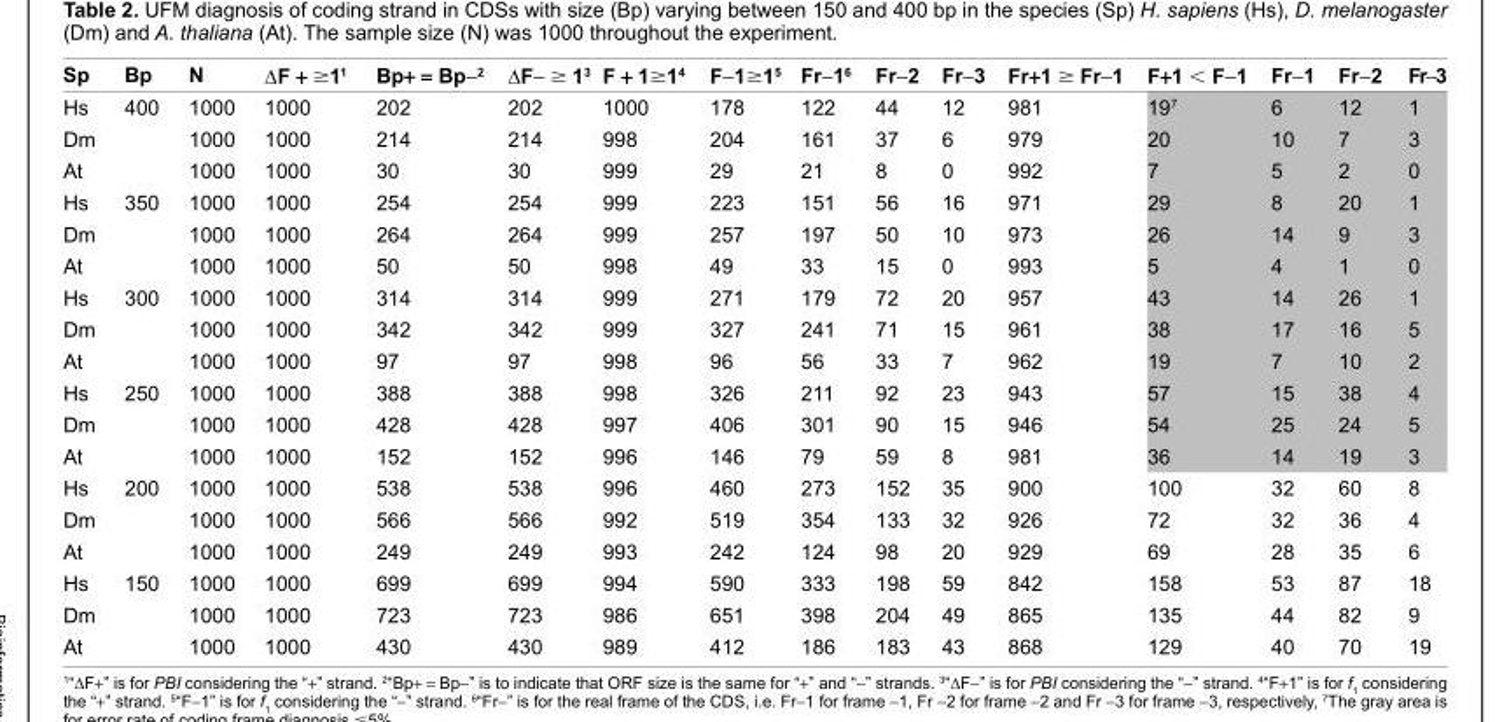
<table><thead><tr><td>sp</td><td>Bp</td><td>n</td><td>∆F + ≥11</td><td>Bp+ = Bp-2</td><td>∆F- ≥ 13</td><td>F + 1≥1<sup>4</sup></td><td>F-1≥1<sup>5</sup></td><td>Fr-1<sup>6</sup></td><td>Fr-2</td><td>Fr-3</td><td>Fr+1 ≥ Fr-1</td><td>F+1 &lt; F-1</td><td>Fr-1</td><td>Fr-2</td><td>Fr-3</td></tr></thead><tbody><tr><td>hs</td><td>400</td><td>1000</td><td>1000</td><td>202</td><td>202</td><td>1000</td><td>178</td><td>122</td><td>44</td><td>12</td><td>981</td><td>19<sup>7</sup></td><td>6</td><td>12</td><td>1</td></tr><tr><td>Dm</td><td></td><td>1000</td><td>1000</td><td>214</td><td>214</td><td>998</td><td>204</td><td>161</td><td>37</td><td>6</td><td>979</td><td>20</td><td>10</td><td>7</td><td>3</td></tr><tr><td>At</td><td></td><td>1000</td><td>1000</td><td>30</td><td>30</td><td>999</td><td>29</td><td>21</td><td>8</td><td>0</td><td>992</td><td>7</td><td>5</td><td>2</td><td>0</td></tr><tr><td>hs</td><td>350</td><td>1000</td><td>1000</td><td>254</td><td>254</td><td>999</td><td>223</td><td>151</td><td>56</td><td>16</td><td>971</td><td>29</td><td>8</td><td>20</td><td>1</td></tr><tr><td>Dm</td><td></td><td>1000</td><td>1000</td><td>264</td><td>264</td><td>999</td><td>257</td><td>197</td><td>50</td><td>10</td><td>973</td><td>26</td><td>14</td><td>9</td><td>3</td></tr><tr><td>At</td><td></td><td>1000</td><td>1000</td><td>50</td><td>50</td><td>998</td><td>49</td><td>33</td><td>15</td><td>0</td><td>993</td><td>5</td><td>4</td><td>1</td><td>0</td></tr><tr><td>hs</td><td>300</td><td>1000</td><td>1000</td><td>314</td><td>314</td><td>999</td><td>271</td><td>179</td><td>72</td><td>20</td><td>957</td><td>43</td><td>14</td><td>26</td><td>1</td></tr><tr><td>Dm</td><td></td><td>1000</td><td>1000</td><td>342</td><td>342</td><td>999</td><td>327</td><td>241</td><td>71</td><td>15</td><td>961</td><td>38</td><td>17</td><td>16</td><td>5</td></tr><tr><td>At</td><td></td><td>1000</td><td>1000</td><td>97</td><td>97</td><td>998</td><td>96</td><td>56</td><td>33</td><td>7</td><td>962</td><td>19</td><td>7</td><td>10</td><td>2</td></tr><tr><td>hs</td><td>250</td><td>1000</td><td>1000</td><td>388</td><td>388</td><td>998</td><td>326</td><td>211</td><td>92</td><td>23</td><td>943</td><td>57</td><td>15</td><td>38</td><td>4</td></tr><tr><td>Dm</td><td></td><td>1000</td><td>1000</td><td>428</td><td>428</td><td>997</td><td>406</td><td>301</td><td>90</td><td>15</td><td>946</td><td>54</td><td>25</td><td>24</td><td>5</td></tr><tr><td>At</td><td></td><td>1000</td><td>1000</td><td>152</td><td>152</td><td>996</td><td>146</td><td>79</td><td>59</td><td>8</td><td>981</td><td>36</td><td>14</td><td>19</td><td>3</td></tr><tr><td>hs</td><td>200</td><td>1000</td><td>1000</td><td>538</td><td>538</td><td>996</td><td>460</td><td>273</td><td>152</td><td>35</td><td>900</td><td>100</td><td>32</td><td>60</td><td>8</td></tr><tr><td>Dm</td><td></td><td>1000</td><td>1000</td><td>566</td><td>566</td><td>992</td><td>519</td><td>354</td><td>133</td><td>32</td><td>926</td><td>72</td><td>32</td><td>36</td><td>4</td></tr><tr><td>At</td><td></td><td>1000</td><td>1000</td><td>249</td><td>249</td><td>993</td><td>242</td><td>124</td><td>98</td><td>20</td><td>929</td><td>69</td><td>28</td><td>35</td><td>6</td></tr><tr><td>hs</td><td>150</td><td>1000</td><td>1000</td><td>699</td><td>699</td><td>994</td><td>590</td><td>333</td><td>198</td><td>59</td><td>842</td><td>158</td><td>53</td><td>87</td><td>18</td></tr><tr><td>Dm</td><td></td><td>1000</td><td>1000</td><td>723</td><td>723</td><td>986</td><td>651</td><td>398</td><td>204</td><td>49</td><td>865</td><td>135</td><td>44</td><td>82</td><td>9</td></tr><tr><td>At</td><td></td><td>1000</td><td>1000</td><td>430</td><td>430</td><td>989</td><td>412</td><td>186</td><td>183</td><td>43</td><td>868</td><td>129</td><td>40</td><td>70</td><td>19</td></tr></tbody></table>